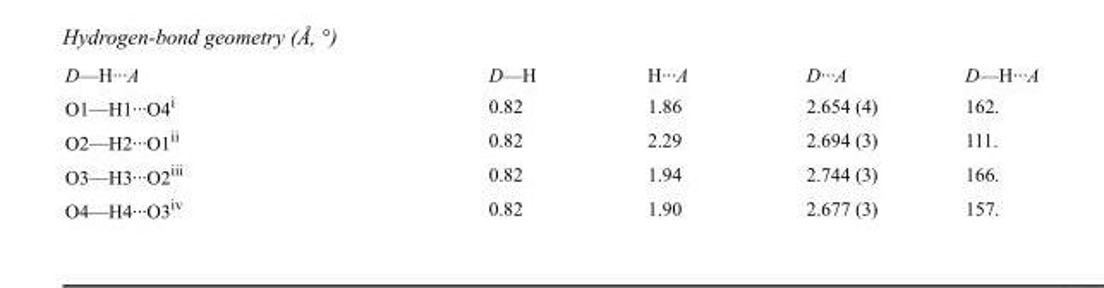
<table><tbody><tr><td>D—H···A</td><td>D—H</td><td>H···A</td><td>D···A</td><td>D—H···A</td></tr><tr><td>O1—H1···O4<sup>i</sup></td><td>0.82</td><td>1.86</td><td>2.654 (4)</td><td>162.</td></tr><tr><td>O2—H2···O1<sup>ii</sup></td><td>0.82</td><td>2.29</td><td>2.694 (3)</td><td>111.</td></tr><tr><td>O3—H3···O2<sup>iii</sup></td><td>0.82</td><td>1.94</td><td>2.744 (3)</td><td>166.</td></tr><tr><td>O4—H4···O3<sup>iv</sup></td><td>0.82</td><td>1.90</td><td>2.677 (3)</td><td>157.</td></tr></tbody></table>